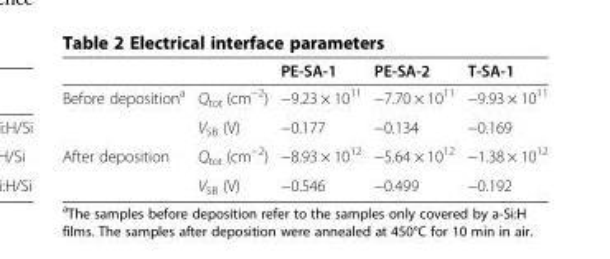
<table><thead><tr><td></td><td></td><td>PE-SA-1</td><td>PE-SA-2</td><td>T-SA-1</td></tr></thead><tbody><tr><td rowspan="2">Before deposition<sup>a</sup></td><td>Q<sub>tot</sub> (cm<sup>−2</sup>)</td><td>−9.23 × 10<sup>11</sup></td><td>−7.70 × 10<sup>11</sup></td><td>−9.93 × 10<sup>11</sup></td></tr><tr><td>V<sub>SB</sub> (V)</td><td>−0.177</td><td>−0.134</td><td>−0.169</td></tr><tr><td rowspan="2">After deposition</td><td>Q<sub>tot</sub> (cm<sup>−2</sup>)</td><td>−8.93 × 10<sup>12</sup></td><td>−5.64 × 10<sup>12</sup></td><td>−1.38 × 10<sup>12</sup></td></tr><tr><td>V<sub>SB</sub> (V)</td><td>−0.546</td><td>−0.499</td><td>−0.192</td></tr></tbody></table>